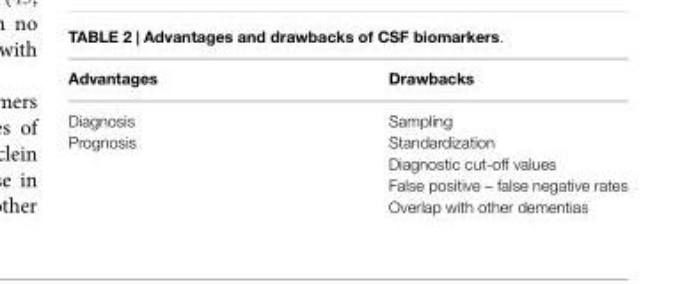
<table><thead><tr><td>Advantages</td><td>Drawbacks</td></tr></thead><tbody><tr><td>Diagnosis</td><td>Sampling</td></tr><tr><td rowspan="4">Prognosis</td><td>Standardization</td></tr><tr><td>Diagnostic cut-off values</td></tr><tr><td>False positive – false negative rates</td></tr><tr><td>Overlap with other dementias</td></tr></tbody></table>